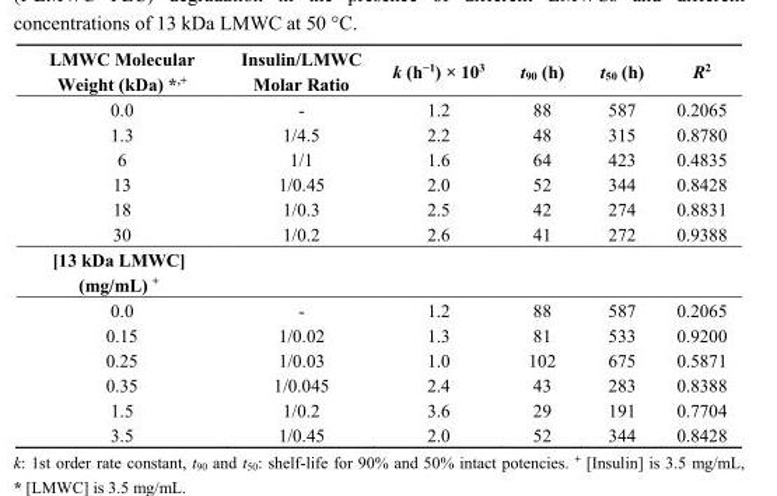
<table><thead><tr><td>LMWC Molecular Weight (kDa) *<sup>,+</sup></td><td>Insulin/LMWC Molar Ratio</td><td>k (h<sup>−1</sup>) × 10<sup>3</sup></td><td>t<sub>90</sub> (h)</td><td>t<sub>50</sub> (h)</td><td>R<sup>2</sup></td></tr></thead><tbody><tr><td>0.0</td><td>-</td><td>1.2</td><td>88</td><td>587</td><td>0.2065</td></tr><tr><td>1.3</td><td>1/4.5</td><td>2.2</td><td>48</td><td>315</td><td>0.8780</td></tr><tr><td>6</td><td>1/1</td><td>1.6</td><td>64</td><td>423</td><td>0.4835</td></tr><tr><td>13</td><td>1/0.45</td><td>2.0</td><td>52</td><td>344</td><td>0.8428</td></tr><tr><td>18</td><td>1/0.3</td><td>2.5</td><td>42</td><td>274</td><td>0.8831</td></tr><tr><td>30</td><td>1/0.2</td><td>2.6</td><td>41</td><td>272</td><td>0.9388</td></tr><tr><td colspan="6">[13 kDa LMWC] (mg/mL) <sup>+</sup></td></tr><tr><td>0.0</td><td>-</td><td>1.2</td><td>88</td><td>587</td><td>0.2065</td></tr><tr><td>0.15</td><td>1/0.02</td><td>1.3</td><td>81</td><td>533</td><td>0.9200</td></tr><tr><td>0.25</td><td>1/0.03</td><td>1.0</td><td>102</td><td>675</td><td>0.5871</td></tr><tr><td>0.35</td><td>1/0.045</td><td>2.4</td><td>43</td><td>283</td><td>0.8388</td></tr><tr><td>1.5</td><td>1/0.2</td><td>3.6</td><td>29</td><td>191</td><td>0.7704</td></tr><tr><td>3.5</td><td>1/0.45</td><td>2.0</td><td>52</td><td>344</td><td>0.8428</td></tr></tbody></table>